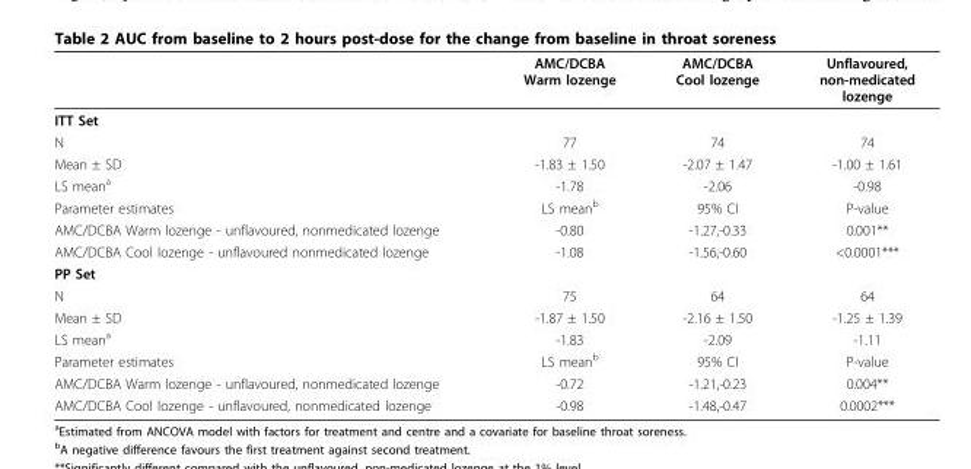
<table><thead><tr><td></td><td>AMC/DCBA Warm lozenge</td><td>AMC/DCBA Cool lozenge</td><td>Unflavoured, non-medicated lozenge</td></tr></thead><tbody><tr><td colspan="4">ITT Set</td></tr><tr><td>N</td><td>77</td><td>74</td><td>74</td></tr><tr><td>Mean ± SD</td><td>-1.83 ± 1.50</td><td>-2.07 ± 1.47</td><td>-1.00 ± 1.61</td></tr><tr><td>LS mean<sup>a</sup></td><td>-1.78</td><td>-2.06</td><td>-0.98</td></tr><tr><td>Parameter estimates</td><td>LS mean<sup>b</sup></td><td>95% CI</td><td>P-value</td></tr><tr><td>AMC/DCBA Warm lozenge - unflavoured, nonmedicated lozenge</td><td>-0.80</td><td>-1.27,-0.33</td><td>0.001**</td></tr><tr><td>AMC/DCBA Cool lozenge - unflavoured nonmedicated lozenge</td><td>-1.08</td><td>-1.56,-0.60</td><td>&lt;0.0001***</td></tr><tr><td colspan="4">PP Set</td></tr><tr><td>N</td><td>75</td><td>64</td><td>64</td></tr><tr><td>Mean ± SD</td><td>-1.87 ± 1.50</td><td>-2.16 ± 1.50</td><td>-1.25 ± 1.39</td></tr><tr><td>LS mean<sup>a</sup></td><td>-1.83</td><td>-2.09</td><td>-1.11</td></tr><tr><td>Parameter estimates</td><td>LS mean<sup>b</sup></td><td>95% CI</td><td>P-value</td></tr><tr><td>AMC/DCBA Warm lozenge - unflavoured, nonmedicated lozenge</td><td>-0.72</td><td>-1.21,-0.23</td><td>0.004**</td></tr><tr><td>AMC/DCBA Cool lozenge - unflavoured, nonmedicated lozenge</td><td>-0.98</td><td>-1.48,-0.47</td><td>0.0002***</td></tr></tbody></table>